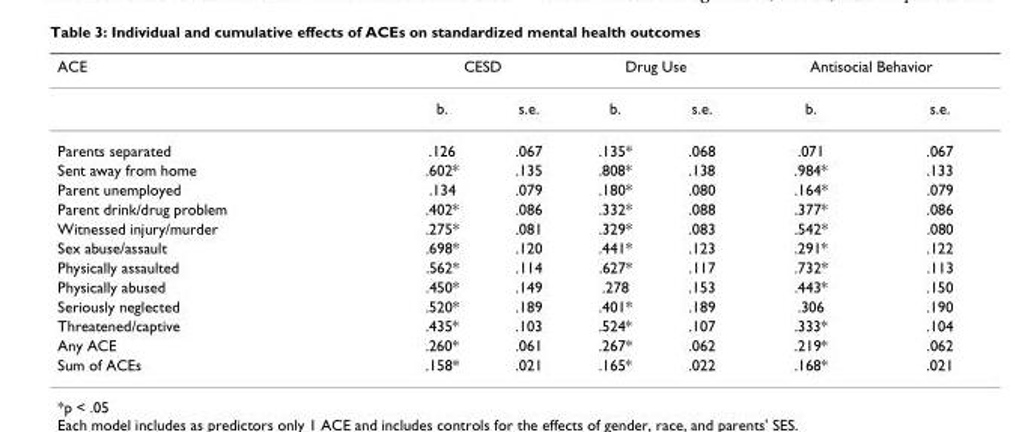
<table><thead><tr><td rowspan="2">ACE</td><td colspan="2">CESD</td><td colspan="2">Drug Use</td><td colspan="2">Antisocial Behavior</td></tr><tr><td>b.</td><td>s.e.</td><td>b.</td><td>s.e.</td><td>b.</td><td>s.e.</td></tr></thead><tbody><tr><td>Parents separated</td><td>.126</td><td>.067</td><td>.135*</td><td>.068</td><td>.071</td><td>.067</td></tr><tr><td>Sent away from home</td><td>.602*</td><td>.135</td><td>.808*</td><td>.138</td><td>.984*</td><td>.133</td></tr><tr><td>Parent unemployed</td><td>.134</td><td>.079</td><td>.180*</td><td>.080</td><td>.164*</td><td>.079</td></tr><tr><td>Parent drink/drug problem</td><td>.402*</td><td>.086</td><td>.332*</td><td>.088</td><td>.377*</td><td>.086</td></tr><tr><td>Witnessed injury/murder</td><td>.275*</td><td>.081</td><td>.329*</td><td>.083</td><td>.542*</td><td>.080</td></tr><tr><td>Sex abuse/assault</td><td>.698*</td><td>.120</td><td>.441*</td><td>.123</td><td>.291*</td><td>.122</td></tr><tr><td>Physically assaulted</td><td>.562*</td><td>.114</td><td>.627*</td><td>.117</td><td>.732*</td><td>.113</td></tr><tr><td>Physically abused</td><td>.450*</td><td>.149</td><td>.278</td><td>.153</td><td>.443*</td><td>.150</td></tr><tr><td>Seriously neglected</td><td>.520*</td><td>.189</td><td>.401*</td><td>.189</td><td>.306</td><td>.190</td></tr><tr><td>Threatened/captive</td><td>.435*</td><td>.103</td><td>.524*</td><td>.107</td><td>.333*</td><td>.104</td></tr><tr><td>Any ACE</td><td>.260*</td><td>.061</td><td>.267*</td><td>.062</td><td>.219*</td><td>.062</td></tr><tr><td>Sum of ACEs</td><td>.158*</td><td>.021</td><td>.165*</td><td>.022</td><td>.168*</td><td>.021</td></tr></tbody></table>